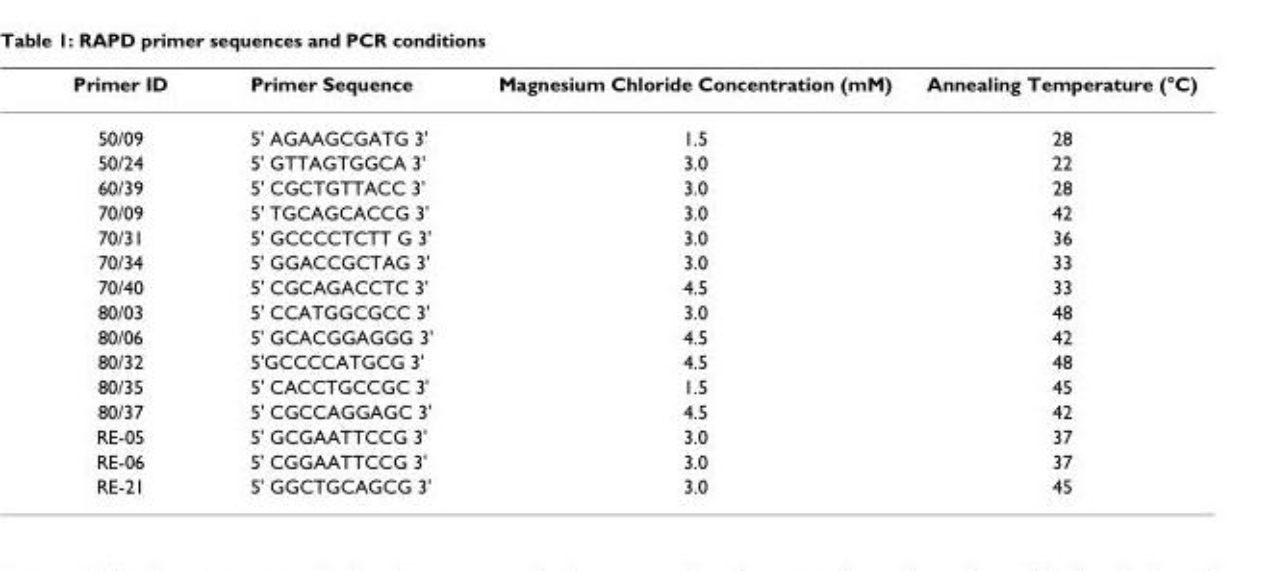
<table><thead><tr><td>Primer ID</td><td>Primer Sequence</td><td>Magnesium Chloride Concentration (mM)</td><td>Annealing Temperature (°C)</td></tr></thead><tbody><tr><td>50/09</td><td>5&#x27; AGAAGCGATG 3&#x27;</td><td>1.5</td><td>28</td></tr><tr><td>50/24</td><td>5&#x27; GTTAGTGGCA 3&#x27;</td><td>3.0</td><td>22</td></tr><tr><td>60/39</td><td>5&#x27; CGCTGTTACC 3&#x27;</td><td>3.0</td><td>28</td></tr><tr><td>70/09</td><td>5&#x27; TGCAGCACCG 3&#x27;</td><td>3.0</td><td>42</td></tr><tr><td>70/31</td><td>5&#x27; GCCCCTCTT G 3&#x27;</td><td>3.0</td><td>36</td></tr><tr><td>70/34</td><td>5&#x27; GGACCGCTAG 3&#x27;</td><td>3.0</td><td>33</td></tr><tr><td>70/40</td><td>5&#x27; CGCAGACCTC 3&#x27;</td><td>4.5</td><td>33</td></tr><tr><td>80/03</td><td>5&#x27; CCATGGCGCC 3&#x27;</td><td>3.0</td><td>48</td></tr><tr><td>80/06</td><td>5&#x27; GCACGGAGGG 3&#x27;</td><td>4.5</td><td>42</td></tr><tr><td>80/32</td><td>5&#x27;GCCCCATGCG 3&#x27;</td><td>4.5</td><td>48</td></tr><tr><td>80/35</td><td>5&#x27; CACCTGCCGC 3&#x27;</td><td>1.5</td><td>45</td></tr><tr><td>80/37</td><td>5&#x27; CGCCAGGAGC 3&#x27;</td><td>4.5</td><td>42</td></tr><tr><td>RE-05</td><td>5&#x27; GCGAATTCCG 3&#x27;</td><td>3.0</td><td>37</td></tr><tr><td>RE-06</td><td>5&#x27; CGGAATTCCG 3&#x27;</td><td>3.0</td><td>37</td></tr><tr><td>RE-21</td><td>5&#x27; GGCTGCAGCG 3&#x27;</td><td>3.0</td><td>45</td></tr></tbody></table>